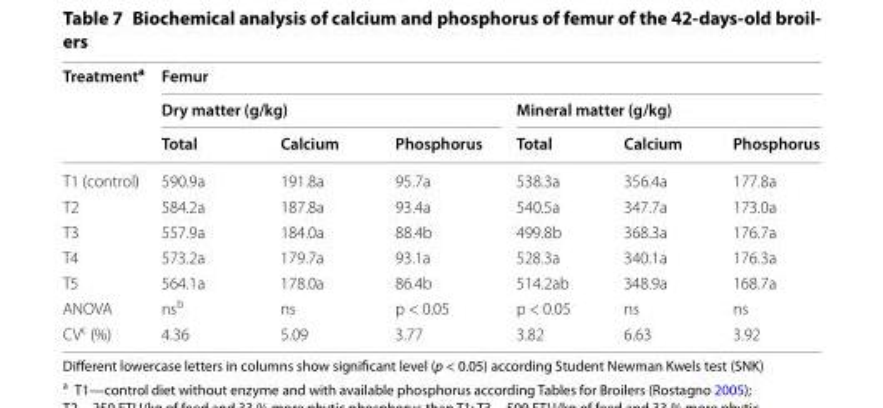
<table><thead><tr><td rowspan="3">Treatment<sup>a</sup></td><td colspan="6">Femur</td></tr><tr><td colspan="3">Dry matter (g/kg)</td><td colspan="3">Mineral matter (g/kg)</td></tr><tr><td>Total</td><td>Calcium</td><td>Phosphorus</td><td>Total</td><td>Calcium</td><td>Phosphorus</td></tr></thead><tbody><tr><td>T1 (control)</td><td>590.9a</td><td>191.8a</td><td>95.7a</td><td>538.3a</td><td>356.4a</td><td>177.8a</td></tr><tr><td>T2</td><td>584.2a</td><td>187.8a</td><td>93.4a</td><td>540.5a</td><td>347.7a</td><td>173.0a</td></tr><tr><td>T3</td><td>557.9a</td><td>184.0a</td><td>88.4b</td><td>499.8b</td><td>368.3a</td><td>176.7a</td></tr><tr><td>T4</td><td>573.2a</td><td>179.7a</td><td>93.1a</td><td>528.3a</td><td>340.1a</td><td>176.3a</td></tr><tr><td>T5</td><td>564.1a</td><td>178.0a</td><td>86.4b</td><td>514.2ab</td><td>348.9a</td><td>168.7a</td></tr><tr><td>ANOVA</td><td>ns<sup>b</sup></td><td>ns</td><td>p &lt; 0.05</td><td>p &lt; 0.05</td><td>ns</td><td>ns</td></tr><tr><td>CV<sup>c</sup> (%)</td><td>4.36</td><td>5.09</td><td>3.77</td><td>3.82</td><td>6.63</td><td>3.92</td></tr></tbody></table>